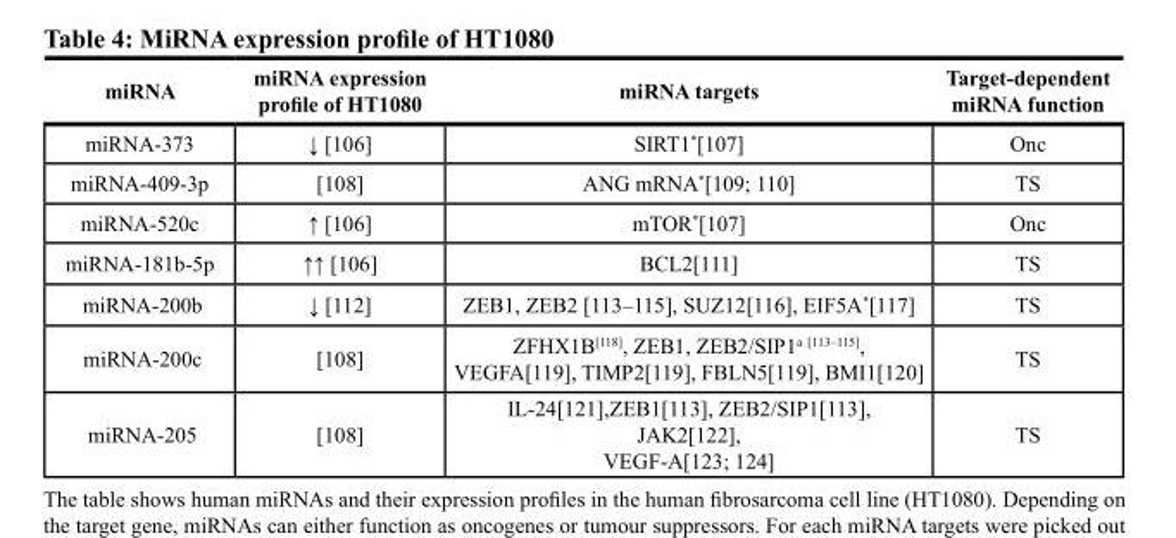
<table><thead><tr><td>miRNA</td><td>miRNA expression profile of HT1080</td><td>miRNA targets</td><td>Target-dependent miRNA function</td></tr></thead><tbody><tr><td>miRNA-373</td><td>↓ [106]</td><td>SIRT1*[107]</td><td>Onc</td></tr><tr><td>miRNA-409-3p</td><td>[108]</td><td>ANG mRNA*[109; 110]</td><td>TS</td></tr><tr><td>miRNA-520c</td><td>↑ [106]</td><td>mTOR*[107]</td><td>Onc</td></tr><tr><td>miRNA-181b-5p</td><td>↑↑ [106]</td><td>BCL2[111]</td><td>TS</td></tr><tr><td>miRNA-200b</td><td>↓ [112]</td><td>ZEB1, ZEB2 [113–115], SUZ12[116], EIF5A*[117]</td><td>TS</td></tr><tr><td>miRNA-200c</td><td>[108]</td><td>ZFHX1B<sup>[118]</sup>, ZEB1, ZEB2/SIP1<sup>a [113–115]</sup>, VEGFA[119], TIMP2[119], FBLN5[119], BMI1[120]</td><td>TS</td></tr><tr><td>miRNA-205</td><td>[108]</td><td>IL-24[121],ZEB1[113], ZEB2/SIP1[113], JAK2[122], VEGF-A[123; 124]</td><td>TS</td></tr></tbody></table>